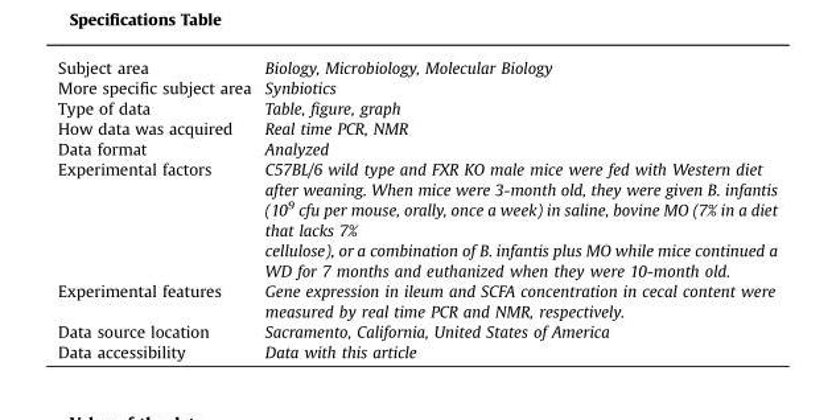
<table><tbody><tr><td>Subject area</td><td>Biology, Microbiology, Molecular Biology</td></tr><tr><td>More specific subject area</td><td>Synbiotics</td></tr><tr><td>Type of data</td><td>Table, figure, graph</td></tr><tr><td>How data was acquired</td><td>Real time PCR, NMR</td></tr><tr><td>Data format</td><td>Analyzed</td></tr><tr><td>Experimental factors</td><td>C57BL/6 wild type and FXR KO male mice were fed with Western diet after weaning. When mice were 3-month old, they were given B. infantis (10<sup>9</sup> cfu per mouse, orally, once a week) in saline, bovine MO (7% in a diet that lacks 7% cellulose), or a combination of B. infantis plus MO while mice continued a WD for 7 months and euthanized when they were 10-month old.</td></tr><tr><td>Experimental features</td><td>Gene expression in ileum and SCFA concentration in cecal content were measured by real time PCR and NMR, respectively.</td></tr><tr><td>Data source location</td><td>Sacramento, California, United States of America</td></tr><tr><td>Data accessibility</td><td>Data with this article</td></tr></tbody></table>